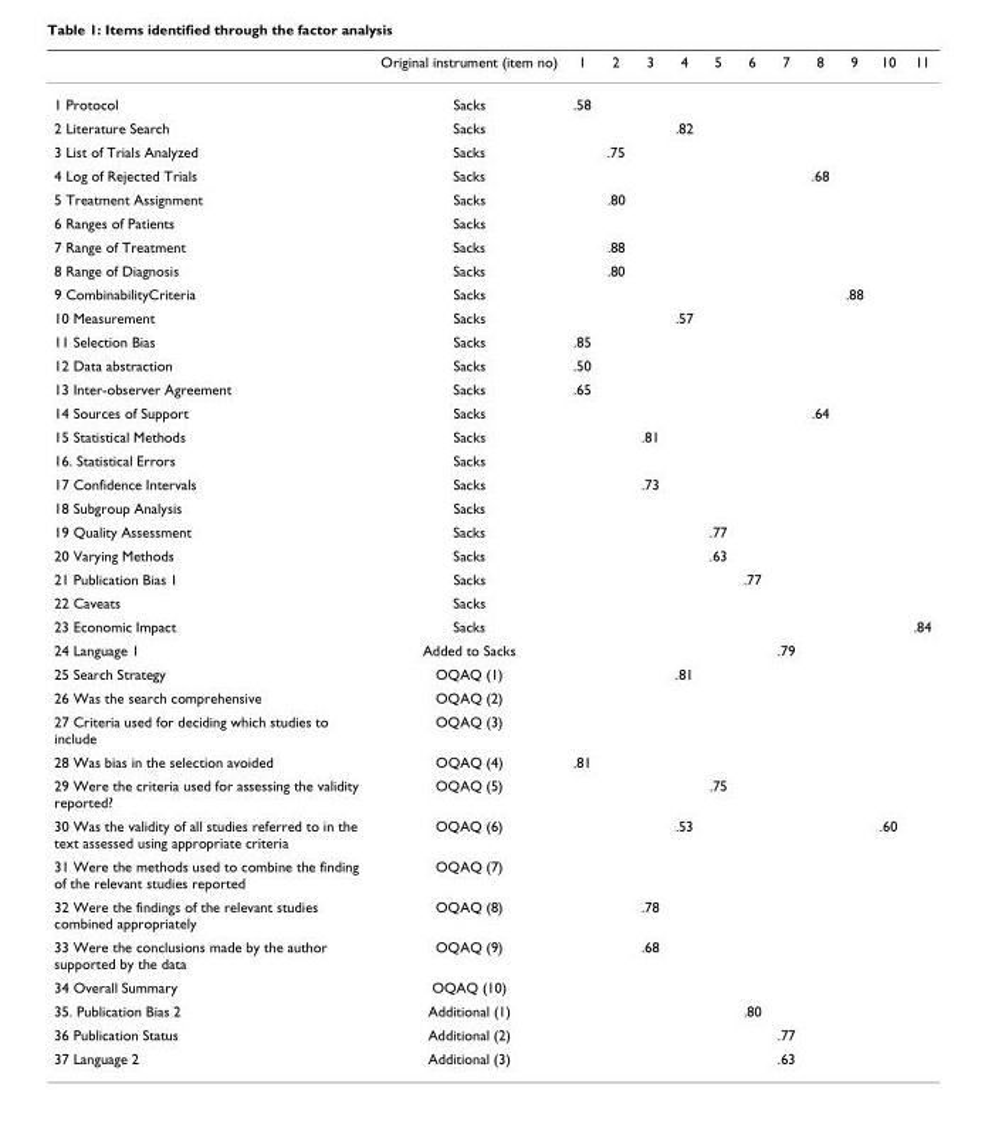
<table><thead><tr><td></td><td>Original instrument (item no)</td><td>1</td><td>2</td><td>3</td><td>4</td><td>5</td><td>6</td><td>7</td><td>8</td><td>9</td><td>10</td><td>11</td></tr></thead><tbody><tr><td>1 Protocol</td><td>Sacks</td><td>.58</td><td></td><td></td><td></td><td></td><td></td><td></td><td></td><td></td><td></td><td></td></tr><tr><td>2 Literature Search</td><td>Sacks</td><td></td><td></td><td></td><td>.82</td><td></td><td></td><td></td><td></td><td></td><td></td><td></td></tr><tr><td>3 List of Trials Analyzed</td><td>Sacks</td><td></td><td>.75</td><td></td><td></td><td></td><td></td><td></td><td></td><td></td><td></td><td></td></tr><tr><td>4 Log of Rejected Trials</td><td>Sacks</td><td></td><td></td><td></td><td></td><td></td><td></td><td></td><td>.68</td><td></td><td></td><td></td></tr><tr><td>5 Treatment Assignment</td><td>Sacks</td><td></td><td>.80</td><td></td><td></td><td></td><td></td><td></td><td></td><td></td><td></td><td></td></tr><tr><td>6 Ranges of Patients</td><td>Sacks</td><td></td><td></td><td></td><td></td><td></td><td></td><td></td><td></td><td></td><td></td><td></td></tr><tr><td>7 Range of Treatment</td><td>Sacks</td><td></td><td>.88</td><td></td><td></td><td></td><td></td><td></td><td></td><td></td><td></td><td></td></tr><tr><td>8 Range of Diagnosis</td><td>Sacks</td><td></td><td>.80</td><td></td><td></td><td></td><td></td><td></td><td></td><td></td><td></td><td></td></tr><tr><td>9 CombinabilityCriteria</td><td>Sacks</td><td></td><td></td><td></td><td></td><td></td><td></td><td></td><td></td><td>.88</td><td></td><td></td></tr><tr><td>10 Measurement</td><td>Sacks</td><td></td><td></td><td></td><td>.57</td><td></td><td></td><td></td><td></td><td></td><td></td><td></td></tr><tr><td>11 Selection Bias</td><td>Sacks</td><td>.85</td><td></td><td></td><td></td><td></td><td></td><td></td><td></td><td></td><td></td><td></td></tr><tr><td>12 Data abstraction</td><td>Sacks</td><td>.50</td><td></td><td></td><td></td><td></td><td></td><td></td><td></td><td></td><td></td><td></td></tr><tr><td>13 Inter-observer Agreement</td><td>Sacks</td><td>.65</td><td></td><td></td><td></td><td></td><td></td><td></td><td></td><td></td><td></td><td></td></tr><tr><td>14 Sources of Support</td><td>Sacks</td><td></td><td></td><td></td><td></td><td></td><td></td><td></td><td>.64</td><td></td><td></td><td></td></tr><tr><td>15 Statistical Methods</td><td>Sacks</td><td></td><td></td><td>.81</td><td></td><td></td><td></td><td></td><td></td><td></td><td></td><td></td></tr><tr><td>16. Statistical Errors</td><td>Sacks</td><td></td><td></td><td></td><td></td><td></td><td></td><td></td><td></td><td></td><td></td><td></td></tr><tr><td>17 Confidence Intervals</td><td>Sacks</td><td></td><td></td><td>.73</td><td></td><td></td><td></td><td></td><td></td><td></td><td></td><td></td></tr><tr><td>18 Subgroup Analysis</td><td>Sacks</td><td></td><td></td><td></td><td></td><td></td><td></td><td></td><td></td><td></td><td></td><td></td></tr><tr><td>19 Quality Assessment</td><td>Sacks</td><td></td><td></td><td></td><td></td><td>.77</td><td></td><td></td><td></td><td></td><td></td><td></td></tr><tr><td>20 Varying Methods</td><td>Sacks</td><td></td><td></td><td></td><td></td><td>.63</td><td></td><td></td><td></td><td></td><td></td><td></td></tr><tr><td>21 Publication Bias 1</td><td>Sacks</td><td></td><td></td><td></td><td></td><td></td><td>.77</td><td></td><td></td><td></td><td></td><td></td></tr><tr><td>22 Caveats</td><td>Sacks</td><td></td><td></td><td></td><td></td><td></td><td></td><td></td><td></td><td></td><td></td><td></td></tr><tr><td>23 Economic Impact</td><td>Sacks</td><td></td><td></td><td></td><td></td><td></td><td></td><td></td><td></td><td></td><td></td><td>.84</td></tr><tr><td>24 Language 1</td><td>Added to Sacks</td><td></td><td></td><td></td><td></td><td></td><td></td><td>.79</td><td></td><td></td><td></td><td></td></tr><tr><td>25 Search Strategy</td><td>OQAQ (1)</td><td></td><td></td><td></td><td>.81</td><td></td><td></td><td></td><td></td><td></td><td></td><td></td></tr><tr><td>26 Was the search comprehensive</td><td>OQAQ (2)</td><td></td><td></td><td></td><td></td><td></td><td></td><td></td><td></td><td></td><td></td><td></td></tr><tr><td>27 Criteria used for deciding which studies to include</td><td>OQAQ (3)</td><td></td><td></td><td></td><td></td><td></td><td></td><td></td><td></td><td></td><td></td><td></td></tr><tr><td>28 Was bias in the selection avoided</td><td>OQAQ (4)</td><td>.81</td><td></td><td></td><td></td><td></td><td></td><td></td><td></td><td></td><td></td><td></td></tr><tr><td>29 Were the criteria used for assessing the validity reported?</td><td>OQAQ (5)</td><td></td><td></td><td></td><td></td><td>.75</td><td></td><td></td><td></td><td></td><td></td><td></td></tr><tr><td>30 Was the validity of all studies referred to in the text assessed using appropriate criteria</td><td>OQAQ (6)</td><td></td><td></td><td></td><td>.53</td><td></td><td></td><td></td><td></td><td></td><td>.60</td><td></td></tr><tr><td>31 Were the methods used to combine the finding of the relevant studies reported</td><td>OQAQ (7)</td><td></td><td></td><td></td><td></td><td></td><td></td><td></td><td></td><td></td><td></td><td></td></tr><tr><td>32 Were the findings of the relevant studies combined appropriately</td><td>OQAQ (8)</td><td></td><td></td><td>.78</td><td></td><td></td><td></td><td></td><td></td><td></td><td></td><td></td></tr><tr><td>33 Were the conclusions made by the author supported by the data</td><td>OQAQ (9)</td><td></td><td></td><td>.68</td><td></td><td></td><td></td><td></td><td></td><td></td><td></td><td></td></tr><tr><td>34 Overall Summary</td><td>OQAQ (10)</td><td></td><td></td><td></td><td></td><td></td><td></td><td></td><td></td><td></td><td></td><td></td></tr><tr><td>35. Publication Bias 2</td><td>Additional (1)</td><td></td><td></td><td></td><td></td><td></td><td>.80</td><td></td><td></td><td></td><td></td><td></td></tr><tr><td>36 Publication Status</td><td>Additional (2)</td><td></td><td></td><td></td><td></td><td></td><td></td><td>.77</td><td></td><td></td><td></td><td></td></tr><tr><td>37 Language 2</td><td>Additional (3)</td><td></td><td></td><td></td><td></td><td></td><td></td><td>.63</td><td></td><td></td><td></td><td></td></tr></tbody></table>